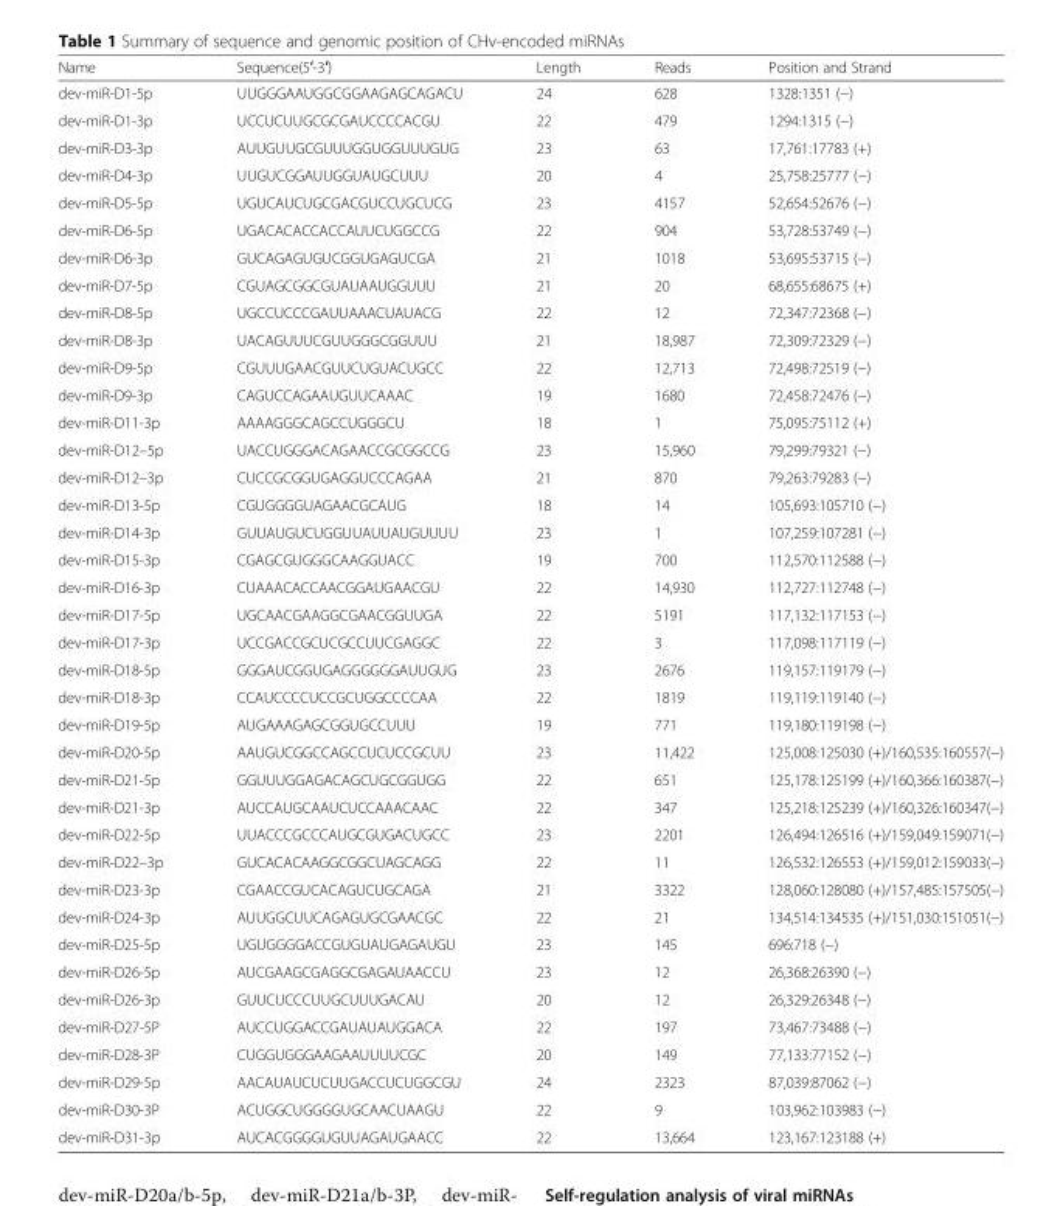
<table><thead><tr><td>Name</td><td>Sequence(5′-3′)</td><td>Length</td><td>Reads</td><td>Position and Strand</td></tr></thead><tbody><tr><td>dev-miR-D1-5p</td><td>UUGGGAAUGGCGGAAGAGCAGACU</td><td>24</td><td>628</td><td>1328:1351 (−)</td></tr><tr><td>dev-miR-D1-3p</td><td>UCCUCUUGCGCGAUCCCCACGU</td><td>22</td><td>479</td><td>1294:1315 (−)</td></tr><tr><td>dev-miR-D3-3p</td><td>AUUGUUGCGUUUGGUGGUUUGUG</td><td>23</td><td>63</td><td>17,761:17783 (+)</td></tr><tr><td>dev-miR-D4-3p</td><td>UUGUCGGAUUGGUAUGCUUU</td><td>20</td><td>4</td><td>25,758:25777 (−)</td></tr><tr><td>dev-miR-D5-5p</td><td>UGUCAUCUGCGACGUCCUGCUCG</td><td>23</td><td>4157</td><td>52,654:52676 (−)</td></tr><tr><td>dev-miR-D6-5p</td><td>UGACACACCACCAUUCUGGCCG</td><td>22</td><td>904</td><td>53,728:53749 (−)</td></tr><tr><td>dev-miR-D6-3p</td><td>GUCAGAGUGUCGGUGAGUCGA</td><td>21</td><td>1018</td><td>53,695:53715 (−)</td></tr><tr><td>dev-miR-D7-5p</td><td>CGUAGCGGCGUAUAAUGGUUU</td><td>21</td><td>20</td><td>68,655:68675 (+)</td></tr><tr><td>dev-miR-D8-5p</td><td>UGCCUCCCGAUUAAACUAUACG</td><td>22</td><td>12</td><td>72,347:72368 (−)</td></tr><tr><td>dev-miR-D8-3p</td><td>UACAGUUUCGUUGGGCGGUUU</td><td>21</td><td>18,987</td><td>72,309:72329 (−)</td></tr><tr><td>dev-miR-D9-5p</td><td>CGUUUGAACGUUCUGUACUGCC</td><td>22</td><td>12,713</td><td>72,498:72519 (−)</td></tr><tr><td>dev-miR-D9-3p</td><td>CAGUCCAGAAUGUUCAAAC</td><td>19</td><td>1680</td><td>72,458:72476 (−)</td></tr><tr><td>dev-miR-D11-3p</td><td>AAAAGGGCAGCCUGGGCU</td><td>18</td><td>1</td><td>75,095:75112 (+)</td></tr><tr><td>dev-miR-D12–5p</td><td>UACCUGGGACAGAACCGCGGCCG</td><td>23</td><td>15,960</td><td>79,299:79321 (−)</td></tr><tr><td>dev-miR-D12–3p</td><td>CUCCGCGGUGAGGUCCCAGAA</td><td>21</td><td>870</td><td>79,263:79283 (−)</td></tr><tr><td>dev-miR-D13-5p</td><td>CGUGGGGUAGAACGCAUG</td><td>18</td><td>14</td><td>105,693:105710 (−)</td></tr><tr><td>dev-miR-D14-3p</td><td>GUUAUGUCUGGUUAUUAUGUUUU</td><td>23</td><td>1</td><td>107,259:107281 (−)</td></tr><tr><td>dev-miR-D15-3p</td><td>CGAGCGUGGGCAAGGUACC</td><td>19</td><td>700</td><td>112,570:112588 (−)</td></tr><tr><td>dev-miR-D16-3p</td><td>CUAAACACCAACGGAUGAACGU</td><td>22</td><td>14,930</td><td>112,727:112748 (−)</td></tr><tr><td>dev-miR-D17-5p</td><td>UGCAACGAAGGCGAACGGUUGA</td><td>22</td><td>5191</td><td>117,132:117153 (−)</td></tr><tr><td>dev-miR-D17-3p</td><td>UCCGACCGCUCGCCUUCGAGGC</td><td>22</td><td>3</td><td>117,098:117119 (−)</td></tr><tr><td>dev-miR-D18-5p</td><td>GGGAUCGGUGAGGGGGGAUUGUG</td><td>23</td><td>2676</td><td>119,157:119179 (−)</td></tr><tr><td>dev-miR-D18-3p</td><td>CCAUCCCCUCCGCUGGCCCCAA</td><td>22</td><td>1819</td><td>119,119:119140 (−)</td></tr><tr><td>dev-miR-D19-5p</td><td>AUGAAAGAGCGGUGCCUUU</td><td>19</td><td>771</td><td>119,180:119198 (−)</td></tr><tr><td>dev-miR-D20-5p</td><td>AAUGUCGGCCAGCCUCUCCGCUU</td><td>23</td><td>11,422</td><td>125,008:125030 (+)/160,535:160557(−)</td></tr><tr><td>dev-miR-D21-5p</td><td>GGUUUGGAGACAGCUGCGGUGG</td><td>22</td><td>651</td><td>125,178:125199 (+)/160,366:160387(−)</td></tr><tr><td>dev-miR-D21-3p</td><td>AUCCAUGCAAUCUCCAAACAAC</td><td>22</td><td>347</td><td>125,218:125239 (+)/160,326:160347(−)</td></tr><tr><td>dev-miR-D22-5p</td><td>UUACCCGCCCAUGCGUGACUGCC</td><td>23</td><td>2201</td><td>126,494:126516 (+)/159,049:159071(−)</td></tr><tr><td>dev-miR-D22–3p</td><td>GUCACACAAGGCGGCUAGCAGG</td><td>22</td><td>11</td><td>126,532:126553 (+)/159,012:159033(−)</td></tr><tr><td>dev-miR-D23-3p</td><td>CGAACCGUCACAGUCUGCAGA</td><td>21</td><td>3322</td><td>128,060:128080 (+)/157,485:157505(−)</td></tr><tr><td>dev-miR-D24-3p</td><td>AUUGGCUUCAGAGUGCGAACGC</td><td>22</td><td>21</td><td>134,514:134535 (+)/151,030:151051(−)</td></tr><tr><td>dev-miR-D25-5p</td><td>UGUGGGGACCGUGUAUGAGAUGU</td><td>23</td><td>145</td><td>696:718 (−)</td></tr><tr><td>dev-miR-D26-5p</td><td>AUCGAAGCGAGGCGAGAUAACCU</td><td>23</td><td>12</td><td>26,368:26390 (−)</td></tr><tr><td>dev-miR-D26-3p</td><td>GUUCUCCCUUGCUUUGACAU</td><td>20</td><td>12</td><td>26,329:26348 (−)</td></tr><tr><td>dev-miR-D27-5P</td><td>AUCCUGGACCGAUAUAUGGACA</td><td>22</td><td>197</td><td>73,467:73488 (−)</td></tr><tr><td>dev-miR-D28-3P</td><td>CUGGUGGGAAGAAUUUUCGC</td><td>20</td><td>149</td><td>77,133:77152 (−)</td></tr><tr><td>dev-miR-D29-5p</td><td>AACAUAUCUCUUGACCUCUGGCGU</td><td>24</td><td>2323</td><td>87,039:87062 (−)</td></tr><tr><td>dev-miR-D30-3P</td><td>ACUGGCUGGGGUGCAACUAAGU</td><td>22</td><td>9</td><td>103,962:103983 (−)</td></tr><tr><td>dev-miR-D31-3p</td><td>AUCACGGGGUGUUAGAUGAACC</td><td>22</td><td>13,664</td><td>123,167:123188 (+)</td></tr></tbody></table>